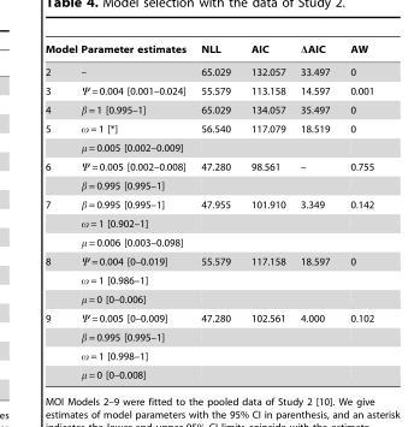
<table><thead><tr><td>Model</td><td>Parameter estimates</td><td>NLL</td><td>AIC</td><td>ΔAIC</td><td>AW</td></tr></thead><tbody><tr><td>2</td><td>–</td><td>65.029</td><td>132.057</td><td>33.497</td><td>0</td></tr><tr><td>3</td><td>Ψ = 0.004 [0.001–0.024]</td><td>55.579</td><td>113.158</td><td>14.597</td><td>0.001</td></tr><tr><td>4</td><td>β = 1 [0.995–1]</td><td>65.029</td><td>134.057</td><td>35.497</td><td>0</td></tr><tr><td rowspan="2">5</td><td>ω = 1 [*]</td><td>56.540</td><td>117.079</td><td>18.519</td><td>0</td></tr><tr><td>μ = 0.005 [0.002–0.009]</td><td></td><td></td><td></td><td></td></tr><tr><td rowspan="2">6</td><td>Ψ = 0.005 [0.002–0.008]</td><td>47.280</td><td>98.561</td><td>–</td><td>0.755</td></tr><tr><td>β = 0.995 [0.995–1]</td><td></td><td></td><td></td><td></td></tr><tr><td rowspan="3">7</td><td>β = 0.995 [0.995–1]</td><td>47.955</td><td>101.910</td><td>3.349</td><td>0.142</td></tr><tr><td>ω = 1 [0.902–1]</td><td></td><td></td><td></td><td></td></tr><tr><td>μ = 0.006 [0.003–0.098]</td><td></td><td></td><td></td><td></td></tr><tr><td rowspan="3">8</td><td>Ψ = 0.004 [0–0.019]</td><td>55.579</td><td>117.158</td><td>18.597</td><td>0</td></tr><tr><td>ω = 1 [0.986–1]</td><td></td><td></td><td></td><td></td></tr><tr><td>μ = 0 [0–0.006]</td><td></td><td></td><td></td><td></td></tr><tr><td rowspan="4">9</td><td>Ψ = 0.005 [0–0.009]</td><td>47.280</td><td>102.561</td><td>4.000</td><td>0.102</td></tr><tr><td>β = 0.995 [0.995–1]</td><td></td><td></td><td></td><td></td></tr><tr><td>ω = 1 [0.998–1]</td><td></td><td></td><td></td><td></td></tr><tr><td>μ = 0 [0–0.008]</td><td></td><td></td><td></td><td></td></tr></tbody></table>